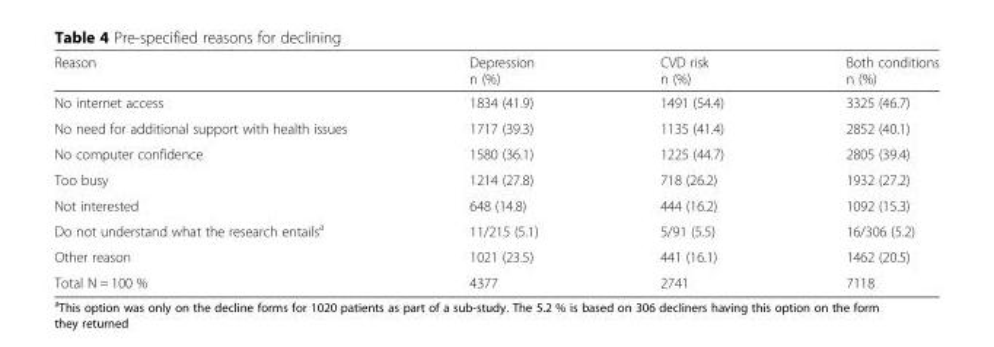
<table><thead><tr><td>Reason</td><td>Depression n (%)</td><td>CVD risk n (%)</td><td>Both conditions n (%)</td></tr></thead><tbody><tr><td>No internet access</td><td>1834 (41.9)</td><td>1491 (54.4)</td><td>3325 (46.7)</td></tr><tr><td>No need for additional support with health issues</td><td>1717 (39.3)</td><td>1135 (41.4)</td><td>2852 (40.1)</td></tr><tr><td>No computer confidence</td><td>1580 (36.1)</td><td>1225 (44.7)</td><td>2805 (39.4)</td></tr><tr><td>Too busy</td><td>1214 (27.8)</td><td>718 (26.2)</td><td>1932 (27.2)</td></tr><tr><td>Not interested</td><td>648 (14.8)</td><td>444 (16.2)</td><td>1092 (15.3)</td></tr><tr><td>Do not understand what the research entails<sup>a</sup></td><td>11/215 (5.1)</td><td>5/91 (5.5)</td><td>16/306 (5.2)</td></tr><tr><td>Other reason</td><td>1021 (23.5)</td><td>441 (16.1)</td><td>1462 (20.5)</td></tr><tr><td>Total N = 100 %</td><td>4377</td><td>2741</td><td>7118</td></tr></tbody></table>